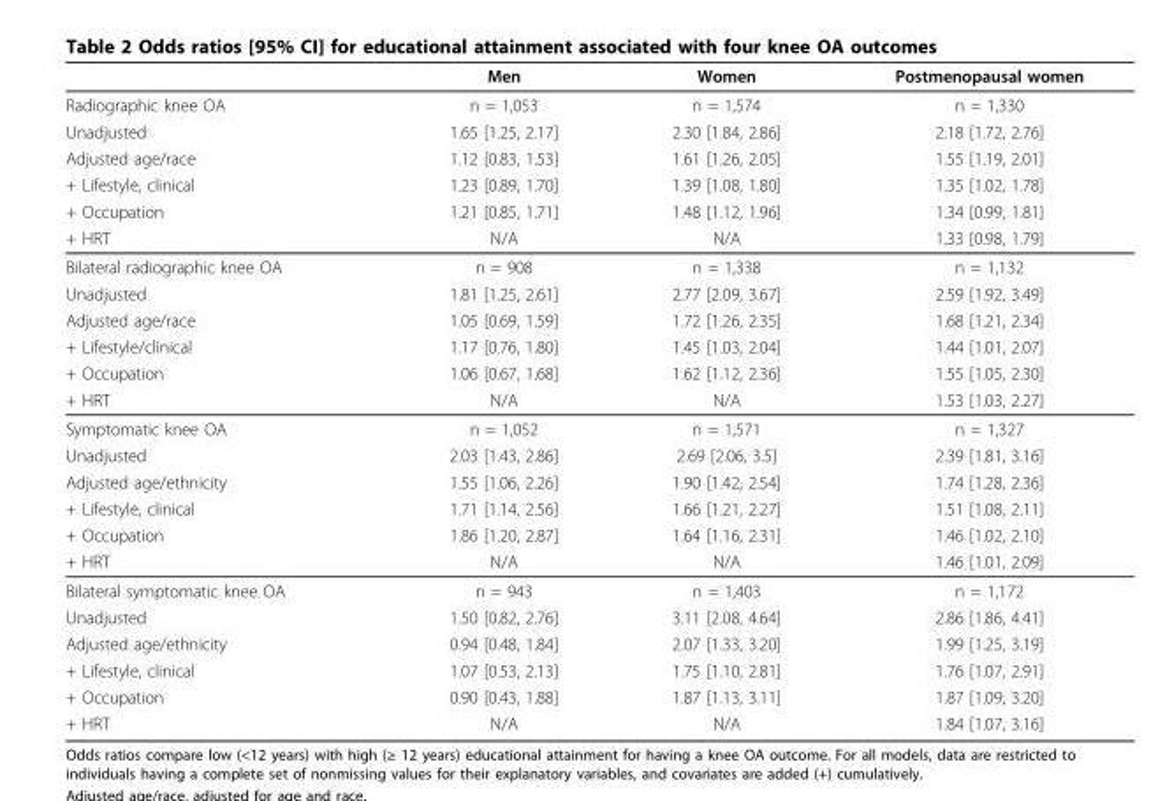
<table><thead><tr><td></td><td>Men</td><td>Women</td><td>Postmenopausal women</td></tr></thead><tbody><tr><td>Radiographic knee OA</td><td>n = 1,053</td><td>n = 1,574</td><td>n = 1,330</td></tr><tr><td>Unadjusted</td><td>1.65 [1.25, 2.17]</td><td>2.30 [1.84, 2.86]</td><td>2.18 [1.72, 2.76]</td></tr><tr><td>Adjusted age/race</td><td>1.12 [0.83, 1.53]</td><td>1.61 [1.26, 2.05]</td><td>1.55 [1.19, 2.01]</td></tr><tr><td>+ Lifestyle, clinical</td><td>1.23 [0.89, 1.70]</td><td>1.39 [1.08, 1.80]</td><td>1.35 [1.02, 1.78]</td></tr><tr><td>+ Occupation</td><td>1.21 [0.85, 1.71]</td><td>1.48 [1.12, 1.96]</td><td>1.34 [0.99, 1.81]</td></tr><tr><td>+ HRT</td><td>N/A</td><td>N/A</td><td>1.33 [0.98, 1.79]</td></tr><tr><td>Bilateral radiographic knee OA</td><td>n = 908</td><td>n = 1,338</td><td>n = 1,132</td></tr><tr><td>Unadjusted</td><td>1.81 [1.25, 2.61]</td><td>2.77 [2.09, 3.67]</td><td>2.59 [1.92, 3.49]</td></tr><tr><td>Adjusted age/race</td><td>1.05 [0.69, 1.59]</td><td>1.72 [1.26, 2.35]</td><td>1.68 [1.21, 2.34]</td></tr><tr><td>+ Lifestyle/clinical</td><td>1.17 [0.76, 1.80]</td><td>1.45 [1.03, 2.04]</td><td>1.44 [1.01, 2.07]</td></tr><tr><td>+ Occupation</td><td>1.06 [0.67, 1.68]</td><td>1.62 [1.12, 2.36]</td><td>1.55 [1.05, 2.30]</td></tr><tr><td>+ HRT</td><td>N/A</td><td>N/A</td><td>1.53 [1.03, 2.27]</td></tr><tr><td>Symptomatic knee OA</td><td>n = 1,052</td><td>n = 1,571</td><td>n = 1,327</td></tr><tr><td>Unadjusted</td><td>2.03 [1.43, 2.86]</td><td>2.69 [2.06, 3.5]</td><td>2.39 [1.81, 3.16]</td></tr><tr><td>Adjusted age/ethnicity</td><td>1.55 [1.06, 2.26]</td><td>1.90 [1.42, 2.54]</td><td>1.74 [1.28, 2.36]</td></tr><tr><td>+ Lifestyle, clinical</td><td>1.71 [1.14, 2.56]</td><td>1.66 [1.21, 2.27]</td><td>1.51 [1.08, 2.11]</td></tr><tr><td>+ Occupation</td><td>1.86 [1.20, 2.87]</td><td>1.64 [1.16, 2.31]</td><td>1.46 [1.02, 2.10]</td></tr><tr><td>+ HRT</td><td>N/A</td><td>N/A</td><td>1.46 [1.01, 2.09]</td></tr><tr><td>Bilateral symptomatic knee OA</td><td>n = 943</td><td>n = 1,403</td><td>n = 1,172</td></tr><tr><td>Unadjusted</td><td>1.50 [0.82, 2.76]</td><td>3.11 [2.08, 4.64]</td><td>2.86 [1.86, 4.41]</td></tr><tr><td>Adjusted age/ethnicity</td><td>0.94 [0.48, 1.84]</td><td>2.07 [1.33, 3.20]</td><td>1.99 [1.25, 3.19]</td></tr><tr><td>+ Lifestyle, clinical</td><td>1.07 [0.53, 2.13]</td><td>1.75 [1.10, 2.81]</td><td>1.76 [1.07, 2.91]</td></tr><tr><td>+ Occupation</td><td>0.90 [0.43, 1.88]</td><td>1.87 [1.13, 3.11]</td><td>1.87 [1.09, 3.20]</td></tr><tr><td>+ HRT</td><td>N/A</td><td>N/A</td><td>1.84 [1.07, 3.16]</td></tr></tbody></table>